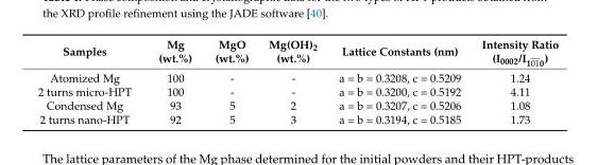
<table><thead><tr><td>Samples</td><td>Mg (wt.%)</td><td>MgO (wt.%)</td><td>Mg(OH)<sub>2</sub> (wt.%)</td><td>Lattice Constants (nm)</td><td>Intensity Ratio (I0002/I1010)</td></tr></thead><tbody><tr><td>Atomized Mg</td><td>100</td><td>-</td><td>-</td><td>a = b = 0.3208, c = 0.5209</td><td>1.24</td></tr><tr><td>2 turns micro-HPT</td><td>100</td><td>-</td><td>-</td><td>a = b = 0.3200, c = 0.5192</td><td>4.11</td></tr><tr><td>Condensed Mg</td><td>93</td><td>5</td><td>2</td><td>a = b = 0.3207, c = 0.5206</td><td>1.08</td></tr><tr><td>2 turns nano-HPT</td><td>92</td><td>5</td><td>3</td><td>a = b = 0.3194, c = 0.5185</td><td>1.73</td></tr></tbody></table>